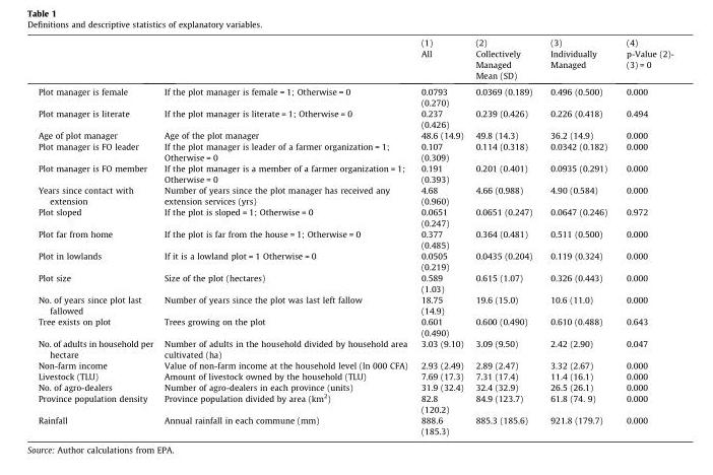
<table><thead><tr><td rowspan="3"></td><td rowspan="3"></td><td rowspan="3">(1) All</td><td rowspan="3">(2) Collectively Managed Mean (SD)</td><td rowspan="3">(3) Individually Managed</td><td rowspan="3">(4) p-Value (2)- (3) = 0</td></tr><tr></tr><tr></tr></thead><tbody><tr><td>Plot manager is female</td><td>If the plot manager is female = 1; Otherwise = 0</td><td>0.0793 (0.270)</td><td>0.0369 (0.189)</td><td>0.496 (0.500)</td><td>0.000</td></tr><tr><td>Plot manager is literate</td><td>If the plot manager is literate = 1; Otherwise = 0</td><td>0.237 (0.426)</td><td>0.239 (0.426)</td><td>0.226 (0.418)</td><td>0.494</td></tr><tr><td>Age of plot manager</td><td>Age of the plot manager</td><td>48.6 (14.9)</td><td>49.8 (14.3)</td><td>36.2 (14.9)</td><td>0.000</td></tr><tr><td>Plot manager is FO leader</td><td>If the plot manager is leader of a farmer organization = 1; Otherwise = 0</td><td>0.107 (0.309)</td><td>0.114 (0.318)</td><td>0.0342 (0.182)</td><td>0.000</td></tr><tr><td>Plot manager is FO member</td><td>If the plot manager is a member of a farmer organization = 1; Otherwise = 0</td><td>0.191 (0.393)</td><td>0.201 (0.401)</td><td>0.0935 (0.291)</td><td>0.000</td></tr><tr><td>Years since contact with extension</td><td>Number of years since the plot manager has received any extension services (yrs)</td><td>4.68 (0.960)</td><td>4.66 (0.988)</td><td>4.90 (0.584)</td><td>0.000</td></tr><tr><td>Plot sloped</td><td>If the plot is sloped = 1; Otherwise = 0</td><td>0.0651 (0.247)</td><td>0.0651 (0.247)</td><td>0.0647 (0.246)</td><td>0.972</td></tr><tr><td>Plot far from home</td><td>If the plot is far from the house = 1; Otherwise = 0</td><td>0.377 (0.485)</td><td>0.364 (0.481)</td><td>0.511 (0.500)</td><td>0.000</td></tr><tr><td>Plot in lowlands</td><td>If it is a lowland plot = 1 Otherwise = 0</td><td>0.0505 (0.219)</td><td>0.0435 (0.204)</td><td>0.119 (0.324)</td><td>0.000</td></tr><tr><td>Plot size</td><td>Size of the plot (hectares)</td><td>0.589 (1.03)</td><td>0.615 (1.07)</td><td>0.326 (0.443)</td><td>0.000</td></tr><tr><td>No. of years since plot last fallowed</td><td>Number of years since the plot was last left fallow</td><td>18.75 (14.9)</td><td>19.6 (15.0)</td><td>10.6 (11.0)</td><td>0.000</td></tr><tr><td>Tree exists on plot</td><td>Trees growing on the plot</td><td>0.601 (0.490)</td><td>0.600 (0.490)</td><td>0.610 (0.488)</td><td>0.643</td></tr><tr><td>No. of adults in household per hectare</td><td>Number of adults in the household divided by household area cultivated (ha)</td><td>3.03 (9.10)</td><td>3.09 (9.50)</td><td>2.42 (2.90)</td><td>0.047</td></tr><tr><td>Non-farm income</td><td>Value of non-farm income at the household level (ln 000 CFA)</td><td>2.93 (2.49)</td><td>2.89 (2.47)</td><td>3.32 (2.67)</td><td>0.000</td></tr><tr><td>Livestock (TLU)</td><td>Amount of livestock owned by the household (TLU)</td><td>7.69 (17.3)</td><td>7.31 (17.4)</td><td>11.4 (16.1)</td><td>0.000</td></tr><tr><td>No. of agro-dealers</td><td>Number of agro-dealers in each province (units)</td><td>31.9 (32.4)</td><td>32.4 (32.9)</td><td>26.5 (26.1)</td><td>0.000</td></tr><tr><td>Province population density</td><td>Province population divided by area (km<sup>2</sup>)</td><td>82.8 (120.2)</td><td>84.9 (123.7)</td><td>61.8 (74. 9)</td><td>0.000</td></tr><tr><td>Rainfall</td><td>Annual rainfall in each commune (mm)</td><td>888.6 (185.3)</td><td>885.3 (185.6)</td><td>921.8 (179.7)</td><td>0.000</td></tr></tbody></table>